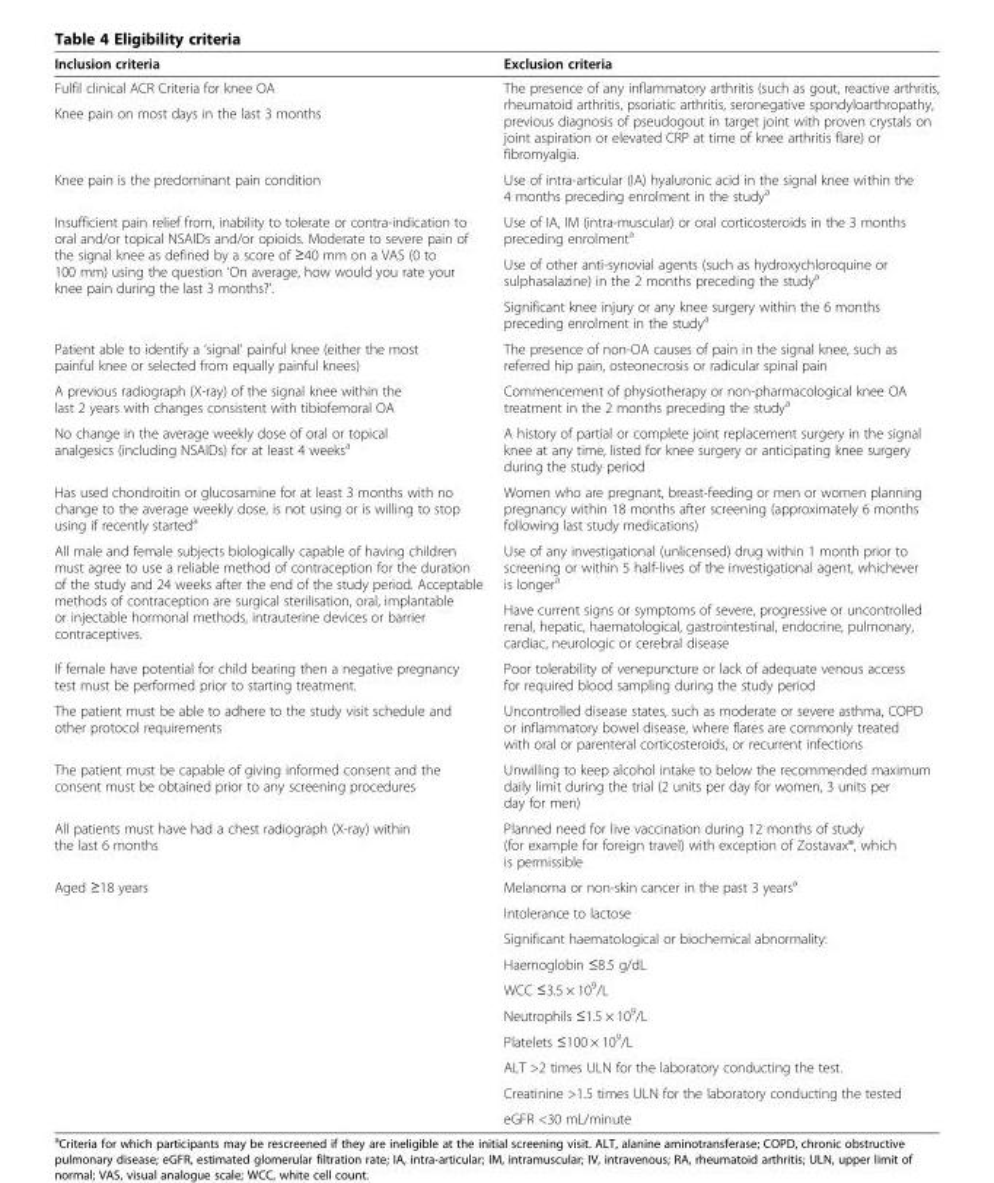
<table><thead><tr><td>Inclusion criteria</td><td>Exclusion criteria</td></tr></thead><tbody><tr><td>Fulfil clinical ACR Criteria for knee OA</td><td rowspan="2">The presence of any inflammatory arthritis (such as gout, reactive arthritis, rheumatoid arthritis, psoriatic arthritis, seronegative spondyloarthropathy, previous diagnosis of pseudogout in target joint with proven crystals on joint aspiration or elevated CRP at time of knee arthritis flare) or fibromyalgia.</td></tr><tr><td>Knee pain on most days in the last 3 months</td></tr><tr><td>Knee pain is the predominant pain condition</td><td>Use of intra-articular (IA) hyaluronic acid in the signal knee within the 4 months preceding enrolment in the study<sup>a</sup></td></tr><tr><td rowspan="3">Insufficient pain relief from, inability to tolerate or contra-indication to oral and/or topical NSAIDs and/or opioids. Moderate to severe pain of the signal knee as defined by a score of ≥40 mm on a VAS (0 to 100 mm) using the question ‘On average, how would you rate your knee pain during the last 3 months?’.</td><td>Use of IA, IM (intra-muscular) or oral corticosteroids in the 3 months preceding enrolment<sup>a</sup></td></tr><tr><td>Use of other anti-synovial agents (such as hydroxychloroquine or sulphasalazine) in the 2 months preceding the study<sup>a</sup></td></tr><tr><td>Significant knee injury or any knee surgery within the 6 months preceding enrolment in the study<sup>a</sup></td></tr><tr><td>Patient able to identify a ‘signal’ painful knee (either the most painful knee or selected from equally painful knees)</td><td>The presence of non-OA causes of pain in the signal knee, such as referred hip pain, osteonecrosis or radicular spinal pain</td></tr><tr><td>A previous radiograph (X-ray) of the signal knee within the last 2 years with changes consistent with tibiofemoral OA</td><td>Commencement of physiotherapy or non-pharmacological knee OA treatment in the 2 months preceding the study<sup>a</sup></td></tr><tr><td>No change in the average weekly dose of oral or topical analgesics (including NSAIDs) for at least 4 weeks<sup>a</sup></td><td>A history of partial or complete joint replacement surgery in the signal knee at any time, listed for knee surgery or anticipating knee surgery during the study period</td></tr><tr><td>Has used chondroitin or glucosamine for at least 3 months with no change to the average weekly dose, is not using or is willing to stop using if recently started<sup>a</sup></td><td>Women who are pregnant, breast-feeding or men or women planning pregnancy within 18 months after screening (approximately 6 months following last study medications)</td></tr><tr><td rowspan="2">All male and female subjects biologically capable of having children must agree to use a reliable method of contraception for the duration of the study and 24 weeks after the end of the study period. Acceptable methods of contraception are surgical sterilisation, oral, implantable or injectable hormonal methods, intrauterine devices or barrier contraceptives.</td><td>Use of any investigational (unlicensed) drug within 1 month prior to screening or within 5 half-lives of the investigational agent, whichever is longer<sup>a</sup></td></tr><tr><td>Have current signs or symptoms of severe, progressive or uncontrolled renal, hepatic, haematological, gastrointestinal, endocrine, pulmonary, cardiac, neurologic or cerebral disease</td></tr><tr><td>If female have potential for child bearing then a negative pregnancy test must be performed prior to starting treatment.</td><td>Poor tolerability of venepuncture or lack of adequate venous access for required blood sampling during the study period</td></tr><tr><td>The patient must be able to adhere to the study visit schedule and other protocol requirements</td><td>Uncontrolled disease states, such as moderate or severe asthma, COPD or inflammatory bowel disease, where flares are commonly treated with oral or parenteral corticosteroids, or recurrent infections</td></tr><tr><td>The patient must be capable of giving informed consent and the consent must be obtained prior to any screening procedures</td><td>Unwilling to keep alcohol intake to below the recommended maximum daily limit during the trial (2 units per day for women, 3 units per day for men)</td></tr><tr><td>All patients must have had a chest radiograph (X-ray) within the last 6 months</td><td>Planned need for live vaccination during 12 months of study (for example for foreign travel) with exception of Zostavax®, which is permissible</td></tr><tr><td rowspan="10">Aged ≥18 years</td><td>Melanoma or non-skin cancer in the past 3 years<sup>a</sup></td></tr><tr><td>Intolerance to lactose</td></tr><tr><td>Significant haematological or biochemical abnormality:</td></tr><tr><td>Haemoglobin ≤8.5 g/dL</td></tr><tr><td>WCC ≤3.5 × 10<sup>9</sup>/L</td></tr><tr><td>Neutrophils ≤1.5 × 10<sup>9</sup>/L</td></tr><tr><td>Platelets ≤100 × 10<sup>9</sup>/L</td></tr><tr><td>ALT &gt;2 times ULN for the laboratory conducting the test.</td></tr><tr><td>Creatinine &gt;1.5 times ULN for the laboratory conducting the tested</td></tr><tr><td>eGFR &lt;30 mL/minute</td></tr></tbody></table>